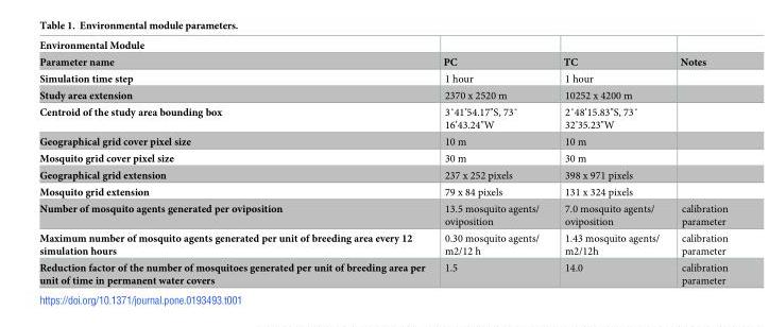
<table><thead><tr><td rowspan="2">Environmental Module Parameter name</td><td rowspan="2">PC</td><td rowspan="2">TC</td><td rowspan="2">Notes</td></tr><tr></tr></thead><tbody><tr><td>Simulation time step</td><td>1 hour</td><td>1 hour</td><td></td></tr><tr><td>Study area extension</td><td>2370 x 2520 m</td><td>10252 x 4200 m</td><td></td></tr><tr><td>Centroid of the study area bounding box</td><td>3˚41’54.17&quot;S, 73˚ 16’43.24&quot;W</td><td>2˚48’15.83&quot;S, 73˚ 32’35.23&quot;W</td><td></td></tr><tr><td>Geographical grid cover pixel size</td><td>10 m</td><td>10 m</td><td></td></tr><tr><td>Mosquito grid cover pixel size</td><td>30 m</td><td>30 m</td><td></td></tr><tr><td>Geographical grid extension</td><td>237 x 252 pixels</td><td>398 x 971 pixels</td><td></td></tr><tr><td>Mosquito grid extension</td><td>79 x 84 pixels</td><td>131 x 324 pixels</td><td></td></tr><tr><td>Number of mosquito agents generated per oviposition</td><td>13.5 mosquito agents/ oviposition</td><td>7.0 mosquito agents/ oviposition</td><td>calibration parameter</td></tr><tr><td>Maximum number of mosquito agents generated per unit of breeding area every 12 simulation hours</td><td>0.30 mosquito agents/ m2/12 h</td><td>1.43 mosquito agents/ m2/12h</td><td>calibration parameter</td></tr><tr><td>Reduction factor of the number of mosquitoes generated per unit of breeding area per unit of time in permanent water covers</td><td>1.5</td><td>14.0</td><td>calibration parameter</td></tr></tbody></table>